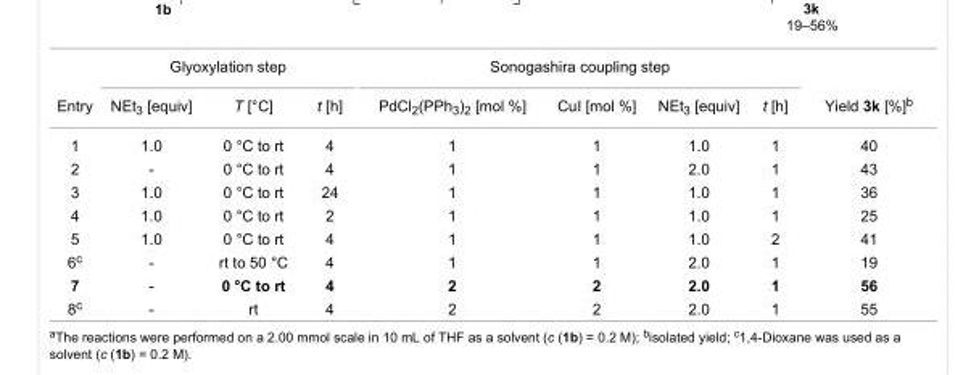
<table><thead><tr><td rowspan="2">Entry</td><td colspan="3">Glyoxylation step</td><td colspan="4">Sonogashira coupling step</td><td rowspan="2">Yield 3k [%]<sup>b</sup></td></tr><tr><td>NEt<sub>3</sub> [equiv]</td><td>T [°C]</td><td>t [h]</td><td>PdCl<sub>2</sub>(PPh<sub>3</sub>)<sub>2</sub> [mol %]</td><td>CuI [mol %]</td><td>NEt<sub>3</sub> [equiv]</td><td>t [h]</td></tr></thead><tbody><tr><td>1</td><td>1.0</td><td>0 °C to rt</td><td>4</td><td>1</td><td>1</td><td>1.0</td><td>1</td><td>40</td></tr><tr><td>2</td><td>-</td><td>0 °C to rt</td><td>4</td><td>1</td><td>1</td><td>2.0</td><td>1</td><td>43</td></tr><tr><td>3</td><td>1.0</td><td>0 °C to rt</td><td>24</td><td>1</td><td>1</td><td>1.0</td><td>1</td><td>36</td></tr><tr><td>4</td><td>1.0</td><td>0 °C to rt</td><td>2</td><td>1</td><td>1</td><td>1.0</td><td>1</td><td>25</td></tr><tr><td>5</td><td>1.0</td><td>0 °C to rt</td><td>4</td><td>1</td><td>1</td><td>1.0</td><td>2</td><td>41</td></tr><tr><td>6<sup>c</sup></td><td>-</td><td>rt to 50 °C</td><td>4</td><td>1</td><td>1</td><td>2.0</td><td>1</td><td>19</td></tr><tr><td>7</td><td>-</td><td>0 °C to rt</td><td>4</td><td>2</td><td>2</td><td>2.0</td><td>1</td><td>56</td></tr><tr><td>8<sup>c</sup></td><td>-</td><td>rt</td><td>4</td><td>2</td><td>2</td><td>2.0</td><td>1</td><td>55</td></tr></tbody></table>